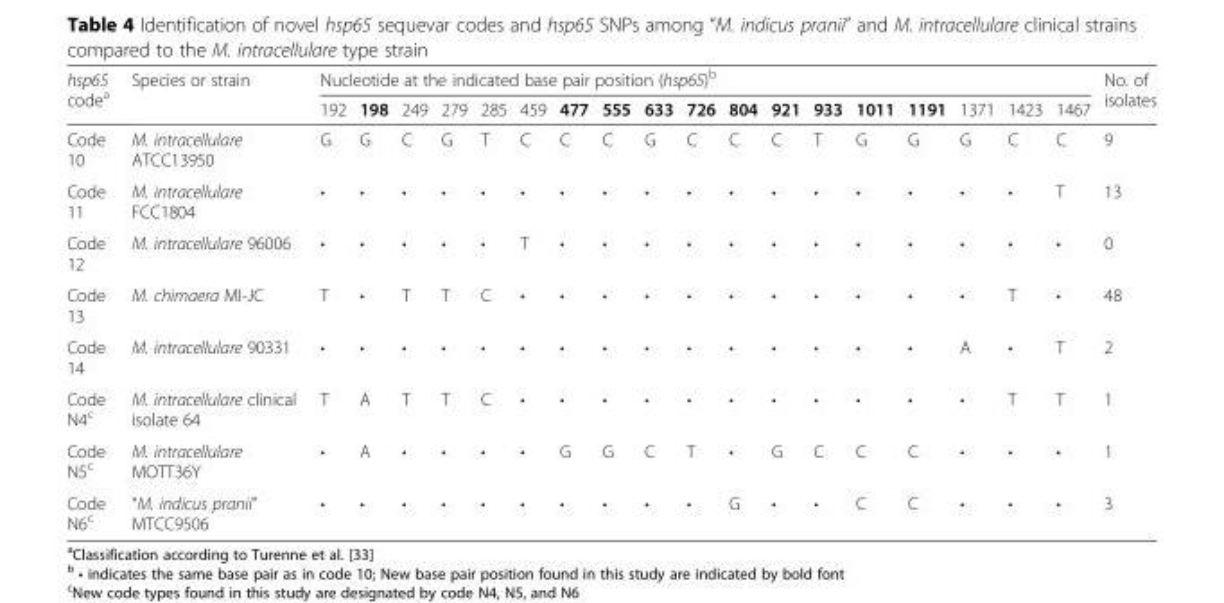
<table><thead><tr><td rowspan="2">hsp65 code<sup>a</sup></td><td rowspan="2">Species or strain</td><td colspan="18">Nucleotide at the indicated base pair position (hsp65)<sup>b</sup></td><td rowspan="2">No. of isolates</td></tr><tr><td>192</td><td>198</td><td>249</td><td>279</td><td>285</td><td>459</td><td>477</td><td>555</td><td>633</td><td>726</td><td>804</td><td>921</td><td>933</td><td>1011</td><td>1191</td><td>1371</td><td>1423</td><td>1467</td></tr></thead><tbody><tr><td>Code 10</td><td>M. intracellulare ATCC13950</td><td>G</td><td>G</td><td>C</td><td>G</td><td>T</td><td>C</td><td>C</td><td>C</td><td>G</td><td>C</td><td>C</td><td>C</td><td>T</td><td>G</td><td>G</td><td>G</td><td>C</td><td>C</td><td>9</td></tr><tr><td>Code 11</td><td>M. intracellulare FCC1804</td><td>•</td><td>•</td><td>•</td><td>•</td><td>•</td><td>•</td><td>•</td><td>•</td><td>•</td><td>•</td><td>•</td><td>•</td><td>•</td><td>•</td><td>•</td><td>•</td><td>•</td><td>T</td><td>13</td></tr><tr><td>Code 12</td><td>M. intracellulare 96006</td><td>•</td><td>•</td><td>•</td><td>•</td><td>•</td><td>T</td><td>•</td><td>•</td><td>•</td><td>•</td><td>•</td><td>•</td><td>•</td><td>•</td><td>•</td><td>•</td><td>•</td><td>•</td><td>0</td></tr><tr><td>Code 13</td><td>M. chimaera MI-JC</td><td>T</td><td>•</td><td>T</td><td>T</td><td>C</td><td>•</td><td>•</td><td>•</td><td>•</td><td>•</td><td>•</td><td>•</td><td>•</td><td>•</td><td>•</td><td>•</td><td>T</td><td>•</td><td>48</td></tr><tr><td>Code 14</td><td>M. intracellulare 90331</td><td>•</td><td>•</td><td>•</td><td>•</td><td>•</td><td>•</td><td>•</td><td>•</td><td>•</td><td>•</td><td>•</td><td>•</td><td>•</td><td>•</td><td>•</td><td>A</td><td>•</td><td>T</td><td>2</td></tr><tr><td>Code N4<sup>c</sup></td><td>M. intracellulare clinical isolate 64</td><td>T</td><td>A</td><td>T</td><td>T</td><td>C</td><td>•</td><td>•</td><td>•</td><td>•</td><td>•</td><td>•</td><td>•</td><td>•</td><td>•</td><td>•</td><td>•</td><td>T</td><td>T</td><td>1</td></tr><tr><td>Code N5<sup>c</sup></td><td>M. intracellulare MOTT36Y</td><td>•</td><td>A</td><td>•</td><td>•</td><td>•</td><td>•</td><td>G</td><td>G</td><td>C</td><td>T</td><td>•</td><td>G</td><td>C</td><td>C</td><td>C</td><td>•</td><td>•</td><td>•</td><td>1</td></tr><tr><td>Code N6<sup>c</sup></td><td>“M. indicus pranii” MTCC9506</td><td>•</td><td>•</td><td>•</td><td>•</td><td>•</td><td>•</td><td>•</td><td>•</td><td>•</td><td>•</td><td>G</td><td>•</td><td>•</td><td>C</td><td>C</td><td>•</td><td>•</td><td>•</td><td>3</td></tr></tbody></table>